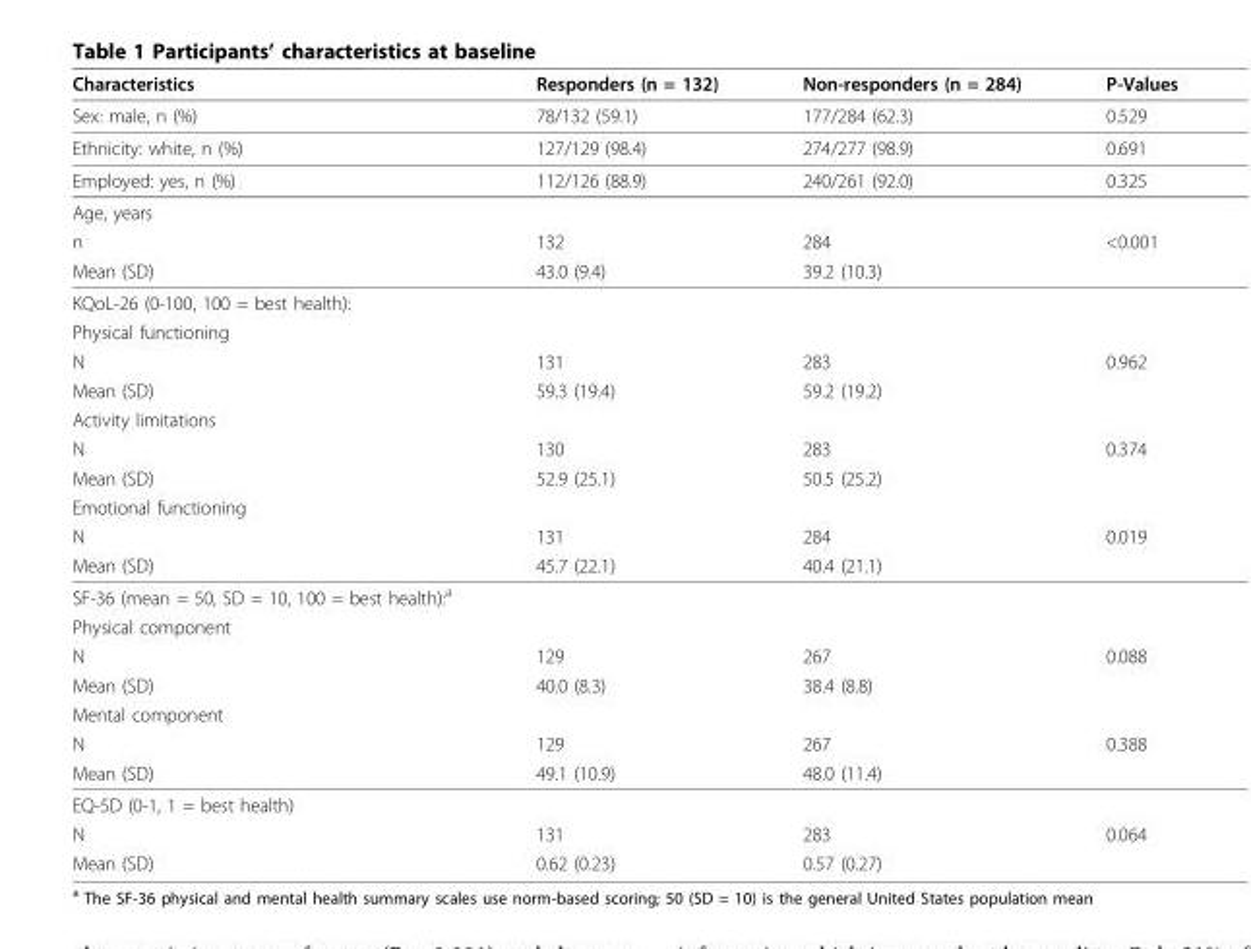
<table><thead><tr><td>Characteristics</td><td>Responders (n = 132)</td><td>Non-responders (n = 284)</td><td>P-Values</td></tr></thead><tbody><tr><td>Sex: male, n (%)</td><td>78/132 (59.1)</td><td>177/284 (62.3)</td><td>0.529</td></tr><tr><td>Ethnicity: white, n (%)</td><td>127/129 (98.4)</td><td>274/277 (98.9)</td><td>0.691</td></tr><tr><td>Employed: yes, n (%)</td><td>112/126 (88.9)</td><td>240/261 (92.0)</td><td>0.325</td></tr><tr><td colspan="4">Age, years</td></tr><tr><td>n</td><td>132</td><td>284</td><td>&lt;0.001</td></tr><tr><td>Mean (SD)</td><td>43.0 (9.4)</td><td>39.2 (10.3)</td><td></td></tr><tr><td colspan="4">KQoL-26 (0-100, 100 = best health):</td></tr><tr><td colspan="4">Physical functioning</td></tr><tr><td>N</td><td>131</td><td>283</td><td>0.962</td></tr><tr><td>Mean (SD)</td><td>59.3 (19.4)</td><td>59.2 (19.2)</td><td></td></tr><tr><td colspan="4">Activity limitations</td></tr><tr><td>N</td><td>130</td><td>283</td><td>0.374</td></tr><tr><td>Mean (SD)</td><td>52.9 (25.1)</td><td>50.5 (25.2)</td><td></td></tr><tr><td colspan="4">Emotional functioning</td></tr><tr><td>N</td><td>131</td><td>284</td><td>0.019</td></tr><tr><td>Mean (SD)</td><td>45.7 (22.1)</td><td>40.4 (21.1)</td><td></td></tr><tr><td colspan="4">SF-36 (mean = 50, SD = 10, 100 = best health):<sup>a</sup></td></tr><tr><td colspan="4">Physical component</td></tr><tr><td>N</td><td>129</td><td>267</td><td>0.088</td></tr><tr><td>Mean (SD)</td><td>40.0 (8.3)</td><td>38.4 (8.8)</td><td></td></tr><tr><td colspan="4">Mental component</td></tr><tr><td>N</td><td>129</td><td>267</td><td>0.388</td></tr><tr><td>Mean (SD)</td><td>49.1 (10.9)</td><td>48.0 (11.4)</td><td></td></tr><tr><td colspan="4">EQ-5D (0-1, 1 = best health)</td></tr><tr><td>N</td><td>131</td><td>283</td><td>0.064</td></tr><tr><td>Mean (SD)</td><td>0.62 (0.23)</td><td>0.57 (0.27)</td><td></td></tr></tbody></table>